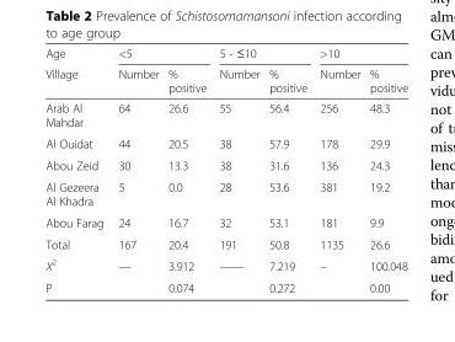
<table><thead><tr><td rowspan="2">Age Village</td><td colspan="2">&lt;5</td><td colspan="2">5 - ≤10</td><td colspan="2">&gt;10</td></tr><tr><td>Number</td><td>% positive</td><td>Number</td><td>% positive</td><td>Number</td><td>% positive</td></tr></thead><tbody><tr><td>Arab Al Mahdar</td><td>64</td><td>26.6</td><td>55</td><td>56.4</td><td>256</td><td>48.3</td></tr><tr><td>Al Ouidat</td><td>44</td><td>20.5</td><td>38</td><td>57.9</td><td>178</td><td>29.9</td></tr><tr><td>Abou Zeid</td><td>30</td><td>13.3</td><td>38</td><td>31.6</td><td>136</td><td>24.3</td></tr><tr><td>Al Gezeera Al Khadra</td><td>5</td><td>0.0</td><td>28</td><td>53.6</td><td>381</td><td>19.2</td></tr><tr><td>Abou Farag</td><td>24</td><td>16.7</td><td>32</td><td>53.1</td><td>181</td><td>9.9</td></tr><tr><td>Total</td><td>167</td><td>20.4</td><td>191</td><td>50.8</td><td>1135</td><td>26.6</td></tr><tr><td>X<sup>2</sup></td><td>—</td><td>3.912</td><td>——</td><td>7.219</td><td>–</td><td>100.048</td></tr><tr><td>P</td><td></td><td>0.074</td><td></td><td>0.272</td><td></td><td>0.00</td></tr></tbody></table>